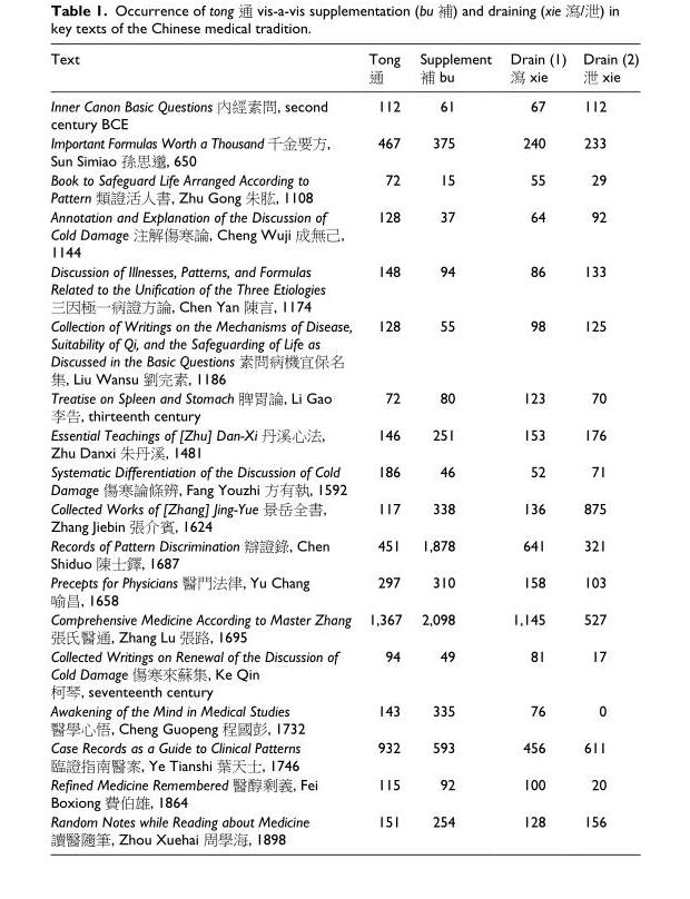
<table><thead><tr><td>Text</td><td>Tong 通</td><td>Supplement 補 bu</td><td>Drain (1) 瀉 xie</td><td>Drain (2) 泄 xie</td></tr></thead><tbody><tr><td>Inner Canon Basic Questions 內經素問, second century BCE</td><td>112</td><td>61</td><td>67</td><td>112</td></tr><tr><td>Important Formulas Worth a Thousand 千金要方, Sun Simiao 孫思邈, 650</td><td>467</td><td>375</td><td>240</td><td>233</td></tr><tr><td>Book to Safeguard Life Arranged According to Pattern 類證活人書, Zhu Gong 朱肱, 1108</td><td>72</td><td>15</td><td>55</td><td>29</td></tr><tr><td>Annotation and Explanation of the Discussion of Cold Damage 注解傷寒論, Cheng Wuji 成無己, 1144</td><td>128</td><td>37</td><td>64</td><td>92</td></tr><tr><td>Discussion of Illnesses, Patterns, and Formulas Related to the Unification of the Three Etiologies 三因極一病證方論, Chen Yan 陳言, 1174</td><td>148</td><td>94</td><td>86</td><td>133</td></tr><tr><td>Collection of Writings on the Mechanisms of Disease, Suitability of Qi, and the Safeguarding of Life as Discussed in the Basic Questions 素問病機宜保名 集, Liu Wansu 劉完素, 1186</td><td>128</td><td>55</td><td>98</td><td>125</td></tr><tr><td>Treatise on Spleen and Stomach 脾胃論, Li Gao 李告, thirteenth century</td><td>72</td><td>80</td><td>123</td><td>70</td></tr><tr><td>Essential Teachings of [Zhu] Dan-Xi 丹溪心法, Zhu Danxi 朱丹溪, 1481</td><td>146</td><td>251</td><td>153</td><td>176</td></tr><tr><td>Systematic Differentiation of the Discussion of Cold Damage 傷寒論條辨, Fang Youzhi 方有執, 1592</td><td>186</td><td>46</td><td>52</td><td>71</td></tr><tr><td>Collected Works of [Zhang] Jing-Yue 景岳全書, Zhang Jiebin 張介賓, 1624</td><td>117</td><td>338</td><td>136</td><td>875</td></tr><tr><td>Records of Pattern Discrimination 辯證錄, Chen Shiduo 陳士鐸, 1687</td><td>451</td><td>1,878</td><td>641</td><td>321</td></tr><tr><td>Precepts for Physicians 醫門法律, Yu Chang 喻昌, 1658</td><td>297</td><td>310</td><td>158</td><td>103</td></tr><tr><td>Comprehensive Medicine According to Master Zhang 張氏醫通, Zhang Lu 張路, 1695</td><td>1,367</td><td>2,098</td><td>1,145</td><td>527</td></tr><tr><td>Collected Writings on Renewal of the Discussion of Cold Damage 傷寒來蘇集, Ke Qin 柯琴, seventeenth century</td><td>94</td><td>49</td><td>81</td><td>17</td></tr><tr><td>Awakening of the Mind in Medical Studies 醫學心悟, Cheng Guopeng 程國彭, 1732</td><td>143</td><td>335</td><td>76</td><td>0</td></tr><tr><td>Case Records as a Guide to Clinical Patterns 臨證指南醫案, Ye Tianshi 葉天士, 1746</td><td>932</td><td>593</td><td>456</td><td>611</td></tr><tr><td>Refined Medicine Remembered 醫醇剩義, Fei Boxiong 費伯雄, 1864</td><td>115</td><td>92</td><td>100</td><td>20</td></tr><tr><td>Random Notes while Reading about Medicine 讀醫隨筆, Zhou Xuehai 周學海, 1898</td><td>151</td><td>254</td><td>128</td><td>156</td></tr></tbody></table>